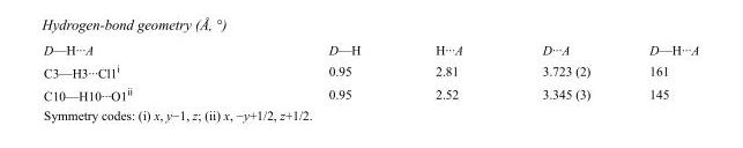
<table><tbody><tr><td>D—H···A</td><td>D—H</td><td>H···A</td><td>D···A</td><td>D—H···A</td></tr><tr><td>C3—H3···Cl1<sup>i</sup></td><td>0.95</td><td>2.81</td><td>3.723 (2)</td><td>161</td></tr><tr><td>C10—H10···O1<sup>ii</sup></td><td>0.95</td><td>2.52</td><td>3.345 (3)</td><td>145</td></tr></tbody></table>